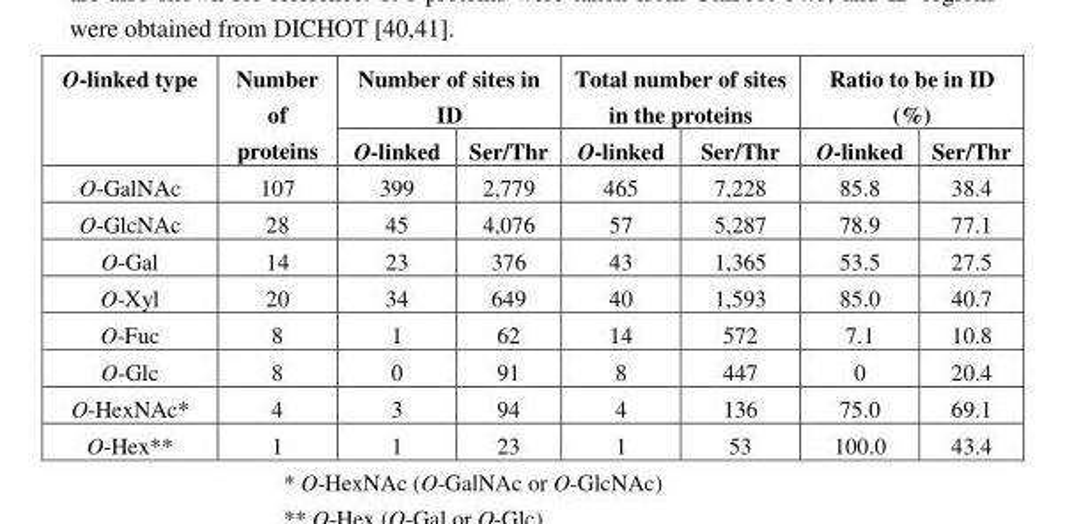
<table><thead><tr><td rowspan="2">O-linked type</td><td rowspan="2">Number of proteins</td><td colspan="2">Number of sites in ID</td><td colspan="2">Total number of sites in the proteins</td><td colspan="2">Ratio to be in ID (%)</td></tr><tr><td>O-linked</td><td>Ser/Thr</td><td>O-linked</td><td>Ser/Thr</td><td>O-linked</td><td>Ser/Thr</td></tr></thead><tbody><tr><td>O-GalNAc</td><td>107</td><td>399</td><td>2,779</td><td>465</td><td>7,228</td><td>85.8</td><td>38.4</td></tr><tr><td>O-GlcNAc</td><td>28</td><td>45</td><td>4,076</td><td>57</td><td>5,287</td><td>78.9</td><td>77.1</td></tr><tr><td>O-Gal</td><td>14</td><td>23</td><td>376</td><td>43</td><td>1,365</td><td>53.5</td><td>27.5</td></tr><tr><td>O-Xyl</td><td>20</td><td>34</td><td>649</td><td>40</td><td>1,593</td><td>85.0</td><td>40.7</td></tr><tr><td>O-Fuc</td><td>8</td><td>1</td><td>62</td><td>14</td><td>572</td><td>7.1</td><td>10.8</td></tr><tr><td>O-Glc</td><td>8</td><td>0</td><td>91</td><td>8</td><td>447</td><td>0</td><td>20.4</td></tr><tr><td>O-HexNAc*</td><td>4</td><td>3</td><td>94</td><td>4</td><td>136</td><td>75.0</td><td>69.1</td></tr><tr><td>O-Hex**</td><td>1</td><td>1</td><td>23</td><td>1</td><td>53</td><td>100.0</td><td>43.4</td></tr></tbody></table>